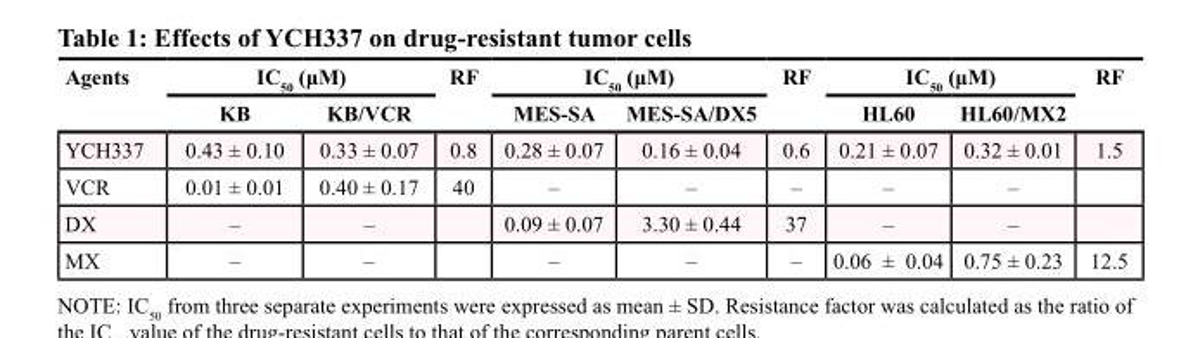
<table><thead><tr><td rowspan="2">Agents</td><td colspan="2">IC<sub>50</sub> (μM)</td><td rowspan="2">RF</td><td colspan="2">IC<sub>50</sub> (μM)</td><td rowspan="2">RF</td><td colspan="2">IC<sub>50</sub> (μM)</td><td rowspan="2">RF</td></tr><tr><td>KB</td><td>KB/VCR</td><td>MES-SA</td><td>MES-SA/DX5</td><td>HL60</td><td>HL60/MX2</td></tr></thead><tbody><tr><td>YCH337</td><td>0.43 ± 0.10</td><td>0.33 ± 0.07</td><td>0.8</td><td>0.28 ± 0.07</td><td>0.16 ± 0.04</td><td>0.6</td><td>0.21 ± 0.07</td><td>0.32 ± 0.01</td><td>1.5</td></tr><tr><td>VCR</td><td>0.01 ± 0.01</td><td>0.40 ± 0.17</td><td>40</td><td>–</td><td>–</td><td>–</td><td>–</td><td>–</td><td></td></tr><tr><td>DX</td><td>–</td><td>–</td><td></td><td>0.09 ± 0.07</td><td>3.30 ± 0.44</td><td>37</td><td>–</td><td>–</td><td></td></tr><tr><td>MX</td><td>–</td><td>–</td><td></td><td>–</td><td>–</td><td>–</td><td>0.06 ± 0.04</td><td>0.75 ± 0.23</td><td>12.5</td></tr></tbody></table>